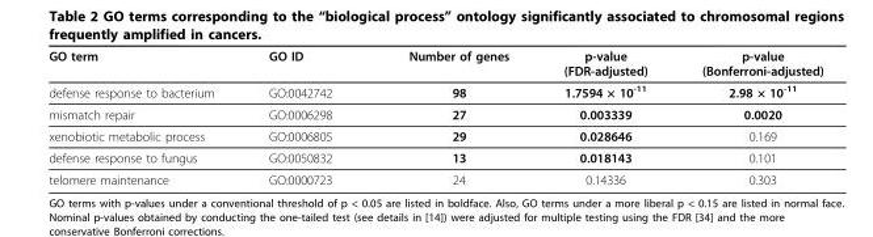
<table><thead><tr><td>GO term</td><td>GO ID</td><td>Number of genes</td><td>p-value (FDR-adjusted)</td><td>p-value (Bonferroni-adjusted)</td></tr></thead><tbody><tr><td>defense response to bacterium</td><td>GO:0042742</td><td>98</td><td>1.7594 × 10<sup>-11</sup></td><td>2.98 × 10<sup>-11</sup></td></tr><tr><td>mismatch repair</td><td>GO:0006298</td><td>27</td><td>0.003339</td><td>0.0020</td></tr><tr><td>xenobiotic metabolic process</td><td>GO:0006805</td><td>29</td><td>0.028646</td><td>0.169</td></tr><tr><td>defense response to fungus</td><td>GO:0050832</td><td>13</td><td>0.018143</td><td>0.101</td></tr><tr><td>telomere maintenance</td><td>GO:0000723</td><td>24</td><td>0.14336</td><td>0.303</td></tr></tbody></table>